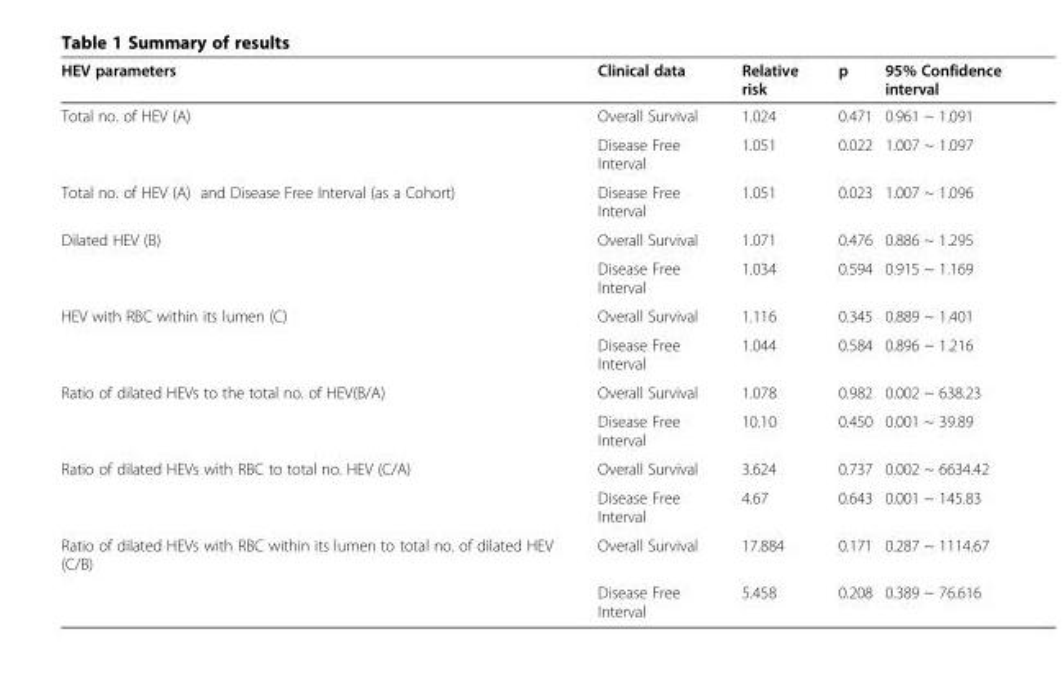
<table><thead><tr><td>HEV parameters</td><td>Clinical data</td><td>Relative risk</td><td>p</td><td>95% Confidence interval</td></tr></thead><tbody><tr><td rowspan="2">Total no. of HEV (A)</td><td>Overall Survival</td><td>1.024</td><td>0.471</td><td>0.961 ~ 1.091</td></tr><tr><td>Disease Free Interval</td><td>1.051</td><td>0.022</td><td>1.007 ~ 1.097</td></tr><tr><td>Total no. of HEV (A) and Disease Free Interval (as a Cohort)</td><td>Disease Free Interval</td><td>1.051</td><td>0.023</td><td>1.007 ~ 1.096</td></tr><tr><td rowspan="2">Dilated HEV (B)</td><td>Overall Survival</td><td>1.071</td><td>0.476</td><td>0.886 ~ 1.295</td></tr><tr><td>Disease Free Interval</td><td>1.034</td><td>0.594</td><td>0.915 ~ 1.169</td></tr><tr><td rowspan="2">HEV with RBC within its lumen (C)</td><td>Overall Survival</td><td>1.116</td><td>0.345</td><td>0.889 ~ 1.401</td></tr><tr><td>Disease Free Interval</td><td>1.044</td><td>0.584</td><td>0.896 ~ 1.216</td></tr><tr><td rowspan="2">Ratio of dilated HEVs to the total no. of HEV(B/A)</td><td>Overall Survival</td><td>1.078</td><td>0.982</td><td>0.002 ~ 638.23</td></tr><tr><td>Disease Free Interval</td><td>10.10</td><td>0.450</td><td>0.001 ~ 39.89</td></tr><tr><td rowspan="2">Ratio of dilated HEVs with RBC to total no. HEV (C/A)</td><td>Overall Survival</td><td>3.624</td><td>0.737</td><td>0.002 ~ 6634.42</td></tr><tr><td>Disease Free Interval</td><td>4.67</td><td>0.643</td><td>0.001 ~ 145.83</td></tr><tr><td rowspan="2">Ratio of dilated HEVs with RBC within its lumen to total no. of dilated HEV (C/B)</td><td>Overall Survival</td><td>17.884</td><td>0.171</td><td>0.287 ~ 1114.67</td></tr><tr><td>Disease Free Interval</td><td>5.458</td><td>0.208</td><td>0.389 ~ 76.616</td></tr></tbody></table>